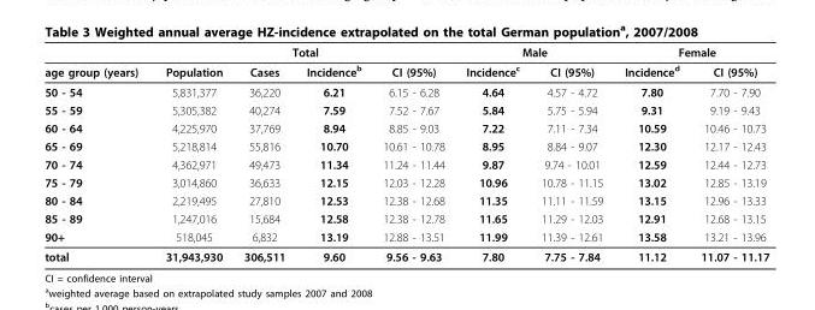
<table><thead><tr><td rowspan="2">age group (years)</td><td colspan="4">Total</td><td colspan="2">Male</td><td colspan="2">Female</td></tr><tr><td>Population</td><td>Cases</td><td>Incidence<sup>b</sup></td><td>CI (95%)</td><td>Incidence<sup>c</sup></td><td>CI (95%)</td><td>Incidence<sup>d</sup></td><td>CI (95%)</td></tr></thead><tbody><tr><td>50 - 54</td><td>5,831,377</td><td>36,220</td><td>6.21</td><td>6.15 - 6.28</td><td>4.64</td><td>4.57 - 4.72</td><td>7.80</td><td>7.70 - 7.90</td></tr><tr><td>55 - 59</td><td>5,305,382</td><td>40,274</td><td>7.59</td><td>7.52 - 7.67</td><td>5.84</td><td>5.75 - 5.94</td><td>9.31</td><td>9.19 - 9.43</td></tr><tr><td>60 - 64</td><td>4,225,970</td><td>37,769</td><td>8.94</td><td>8.85 - 9.03</td><td>7.22</td><td>7.11 - 7.34</td><td>10.59</td><td>10.46 - 10.73</td></tr><tr><td>65 - 69</td><td>5,218,814</td><td>55,816</td><td>10.70</td><td>10.61 - 10.78</td><td>8.95</td><td>8.84 - 9.07</td><td>12.30</td><td>12.17 - 12.43</td></tr><tr><td>70 - 74</td><td>4,362,971</td><td>49,473</td><td>11.34</td><td>11.24 - 11.44</td><td>9.87</td><td>9.74 - 10.01</td><td>12.59</td><td>12.44 - 12.73</td></tr><tr><td>75 - 79</td><td>3,014,860</td><td>36,633</td><td>12.15</td><td>12.03 - 12.28</td><td>10.96</td><td>10.78 - 11.15</td><td>13.02</td><td>12.85 - 13.19</td></tr><tr><td>80 - 84</td><td>2,219,495</td><td>27,810</td><td>12.53</td><td>12.38 - 12.68</td><td>11.35</td><td>11.11 - 11.59</td><td>13.15</td><td>12.96 - 13.33</td></tr><tr><td>85 - 89</td><td>1,247,016</td><td>15,684</td><td>12.58</td><td>12.38 - 12.78</td><td>11.65</td><td>11.29 - 12.03</td><td>12.91</td><td>12.68 - 13.15</td></tr><tr><td>90+</td><td>518,045</td><td>6,832</td><td>13.19</td><td>12.88 - 13.51</td><td>11.99</td><td>11.39 - 12.61</td><td>13.58</td><td>13.21 - 13.96</td></tr><tr><td>total</td><td>31,943,930</td><td>306,511</td><td>9.60</td><td>9.56 - 9.63</td><td>7.80</td><td>7.75 - 7.84</td><td>11.12</td><td>11.07 - 11.17</td></tr></tbody></table>